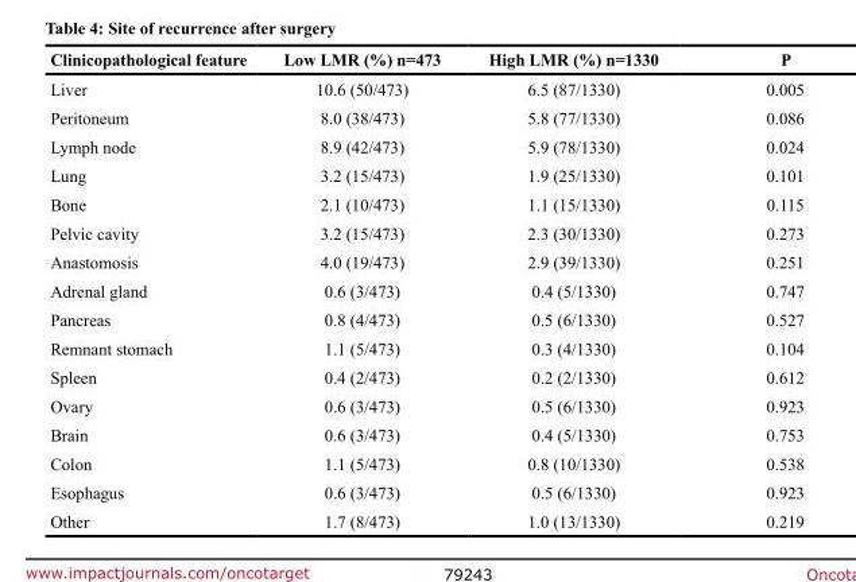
<table><thead><tr><td>Clinicopathological feature</td><td>Low LMR (%) n=473</td><td>High LMR (%) n=1330</td><td>P</td></tr></thead><tbody><tr><td>Liver</td><td>10.6 (50/473)</td><td>6.5 (87/1330)</td><td>0.005</td></tr><tr><td>Peritoneum</td><td>8.0 (38/473)</td><td>5.8 (77/1330)</td><td>0.086</td></tr><tr><td>Lymph node</td><td>8.9 (42/473)</td><td>5.9 (78/1330)</td><td>0.024</td></tr><tr><td>Lung</td><td>3.2 (15/473)</td><td>1.9 (25/1330)</td><td>0.101</td></tr><tr><td>Bone</td><td>2.1 (10/473)</td><td>1.1 (15/1330)</td><td>0.115</td></tr><tr><td>Pelvic cavity</td><td>3.2 (15/473)</td><td>2.3 (30/1330)</td><td>0.273</td></tr><tr><td>Anastomosis</td><td>4.0 (19/473)</td><td>2.9 (39/1330)</td><td>0.251</td></tr><tr><td>Adrenal gland</td><td>0.6 (3/473)</td><td>0.4 (5/1330)</td><td>0.747</td></tr><tr><td>Pancreas</td><td>0.8 (4/473)</td><td>0.5 (6/1330)</td><td>0.527</td></tr><tr><td>Remnant stomach</td><td>1.1 (5/473)</td><td>0.3 (4/1330)</td><td>0.104</td></tr><tr><td>Spleen</td><td>0.4 (2/473)</td><td>0.2 (2/1330)</td><td>0.612</td></tr><tr><td>Ovary</td><td>0.6 (3/473)</td><td>0.5 (6/1330)</td><td>0.923</td></tr><tr><td>Brain</td><td>0.6 (3/473)</td><td>0.4 (5/1330)</td><td>0.753</td></tr><tr><td>Colon</td><td>1.1 (5/473)</td><td>0.8 (10/1330)</td><td>0.538</td></tr><tr><td>Esophagus</td><td>0.6 (3/473)</td><td>0.5 (6/1330)</td><td>0.923</td></tr><tr><td>Other</td><td>1.7 (8/473)</td><td>1.0 (13/1330)</td><td>0.219</td></tr></tbody></table>